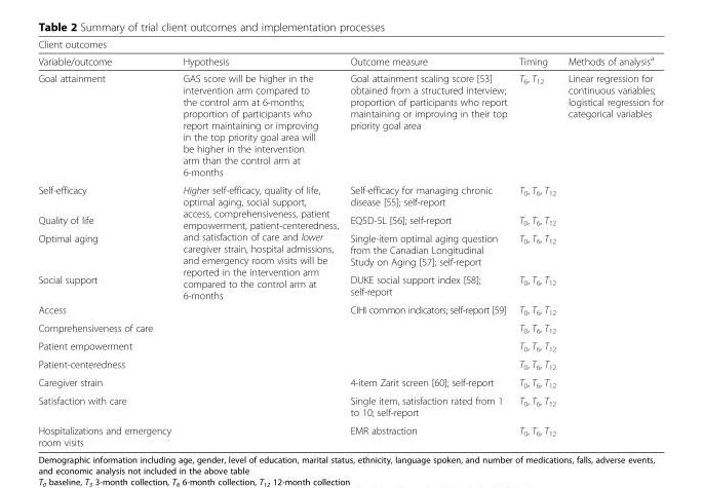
<table><thead><tr><td colspan="5">Client outcomes</td></tr><tr><td>Variable/outcome</td><td>Hypothesis</td><td>Outcome measure</td><td>Timing</td><td>Methods of analysis<sup>a</sup></td></tr></thead><tbody><tr><td>Goal attainment</td><td>GAS score will be higher in the intervention arm compared to the control arm at 6-months; proportion of participants who report maintaining or improving in the top priority goal area will be higher in the intervention arm than the control arm at 6-months</td><td>Goal attainment scaling score [53] obtained from a structured interview; proportion of participants who report maintaining or improving in their top priority goal area</td><td>T<sub>6</sub>, T<sub>12</sub></td><td rowspan="12">Linear regression for continuous variables; logistical regression for categorical variables</td></tr><tr><td>Self-efficacy</td><td rowspan="11">Higher self-efficacy, quality of life, optimal aging, social support, access, comprehensiveness, patient empowerment, patient-centeredness, and satisfaction of care and lower caregiver strain, hospital admissions, and emergency room visits will be reported in the intervention arm compared to the control arm at 6-months</td><td>Self-efficacy for managing chronic disease [55]; self-report</td><td>T<sub>0</sub>, T<sub>6</sub>, T<sub>12</sub></td></tr><tr><td>Quality of life</td><td>EQ5D-5L [56]; self-report</td><td>T<sub>0</sub>, T<sub>6</sub>, T<sub>12</sub></td></tr><tr><td>Optimal aging</td><td>Single-item optimal aging question from the Canadian Longitudinal Study on Aging [57]; self-report</td><td>T<sub>0</sub>, T<sub>6</sub>, T<sub>12</sub></td></tr><tr><td>Social support</td><td>DUKE social support index [58]; self-report</td><td>T<sub>0</sub>, T<sub>6</sub>, T<sub>12</sub></td></tr><tr><td>Access</td><td rowspan="4">CIHI common indicators; self-report [59]</td><td>T<sub>0</sub>, T<sub>6</sub>, T<sub>12</sub></td></tr><tr><td>Comprehensiveness of care</td><td>T<sub>0</sub>, T<sub>6</sub>, T<sub>12</sub></td></tr><tr><td>Patient empowerment</td><td>T<sub>0</sub>, T<sub>6</sub>, T<sub>12</sub></td></tr><tr><td>Patient-centeredness</td><td>T<sub>0</sub>, T<sub>6</sub>, T<sub>12</sub></td></tr><tr><td>Caregiver strain</td><td>4-item Zarit screen [60]; self-report</td><td>T<sub>0</sub>, T<sub>6</sub>, T<sub>12</sub></td></tr><tr><td>Satisfaction with care</td><td>Single item, satisfaction rated from 1 to 10; self-report</td><td>T<sub>0</sub>, T<sub>6</sub>, T<sub>12</sub></td></tr><tr><td>Hospitalizations and emergency room visits</td><td>EMR abstraction</td><td>T<sub>0</sub>, T<sub>6</sub>, T<sub>12</sub></td></tr></tbody></table>